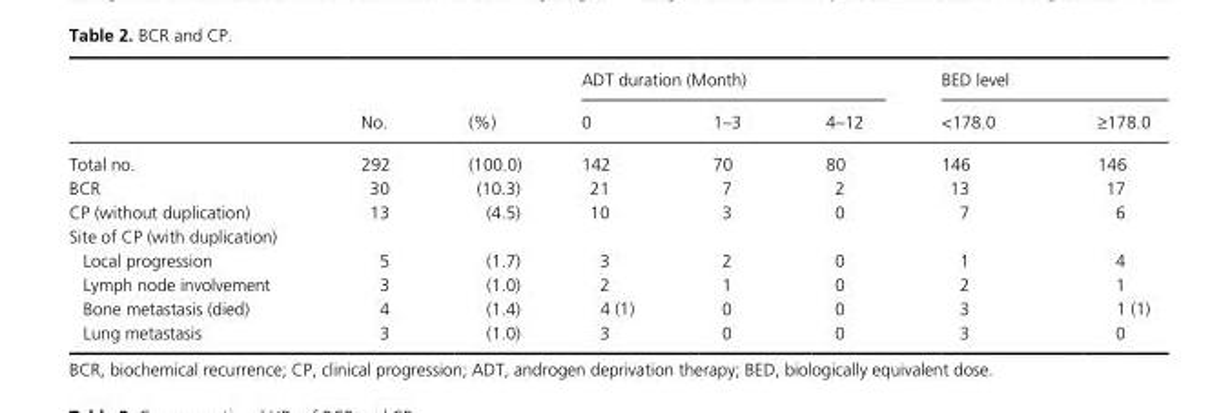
<table><thead><tr><td rowspan="2"></td><td rowspan="2">No.</td><td rowspan="2">(%)</td><td colspan="3">ADT duration (Month)</td><td colspan="2">BED level</td></tr><tr><td>0</td><td>1–3</td><td>4–12</td><td>&lt;178.0</td><td>≥178.0</td></tr></thead><tbody><tr><td>Total no.</td><td>292</td><td>(100.0)</td><td>142</td><td>70</td><td>80</td><td>146</td><td>146</td></tr><tr><td>BCR</td><td>30</td><td>(10.3)</td><td>21</td><td>7</td><td>2</td><td>13</td><td>17</td></tr><tr><td>CP (without duplication)</td><td>13</td><td>(4.5)</td><td>10</td><td>3</td><td>0</td><td>7</td><td>6</td></tr><tr><td colspan="8">Site of CP (with duplication)</td></tr><tr><td>Local progression</td><td>5</td><td>(1.7)</td><td>3</td><td>2</td><td>0</td><td>1</td><td>4</td></tr><tr><td>Lymph node involvement</td><td>3</td><td>(1.0)</td><td>2</td><td>1</td><td>0</td><td>2</td><td>1</td></tr><tr><td>Bone metastasis (died)</td><td>4</td><td>(1.4)</td><td>4 (1)</td><td>0</td><td>0</td><td>3</td><td>1 (1)</td></tr><tr><td>Lung metastasis</td><td>3</td><td>(1.0)</td><td>3</td><td>0</td><td>0</td><td>3</td><td>0</td></tr></tbody></table>